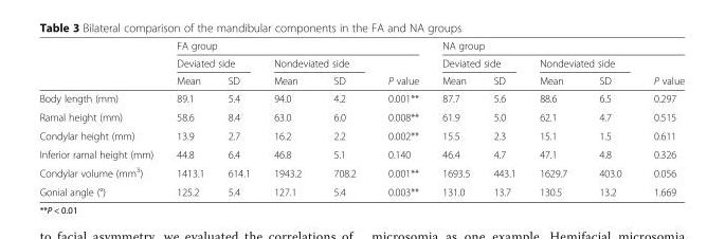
<table><thead><tr><td rowspan="3"></td><td colspan="5">FA group</td><td colspan="5">NA group</td></tr><tr><td colspan="2">Deviated side</td><td colspan="2">Nondeviated side</td><td rowspan="2">P value</td><td colspan="2">Deviated side</td><td colspan="2">Nondeviated side</td><td rowspan="2">P value</td></tr><tr><td>Mean</td><td>SD</td><td>Mean</td><td>SD</td><td>Mean</td><td>SD</td><td>Mean</td><td>SD</td></tr></thead><tbody><tr><td>Body length (mm)</td><td>89.1</td><td>5.4</td><td>94.0</td><td>4.2</td><td>0.001**</td><td>87.7</td><td>5.6</td><td>88.6</td><td>6.5</td><td>0.297</td></tr><tr><td>Ramal height (mm)</td><td>58.6</td><td>8.4</td><td>63.0</td><td>6.0</td><td>0.008**</td><td>61.9</td><td>5.0</td><td>62.1</td><td>4.7</td><td>0.515</td></tr><tr><td>Condylar height (mm)</td><td>13.9</td><td>2.7</td><td>16.2</td><td>2.2</td><td>0.002**</td><td>15.5</td><td>2.3</td><td>15.1</td><td>1.5</td><td>0.611</td></tr><tr><td>Inferior ramal height (mm)</td><td>44.8</td><td>6.4</td><td>46.8</td><td>5.1</td><td>0.140</td><td>46.4</td><td>4.7</td><td>47.1</td><td>4.8</td><td>0.326</td></tr><tr><td>Condylar volume (mm<sup>3</sup>)</td><td>1413.1</td><td>614.1</td><td>1943.2</td><td>708.2</td><td>0.001**</td><td>1693.5</td><td>443.1</td><td>1629.7</td><td>403.0</td><td>0.056</td></tr><tr><td>Gonial angle (°)</td><td>125.2</td><td>5.4</td><td>127.1</td><td>5.4</td><td>0.003**</td><td>131.0</td><td>13.7</td><td>130.5</td><td>13.2</td><td>1.669</td></tr></tbody></table>